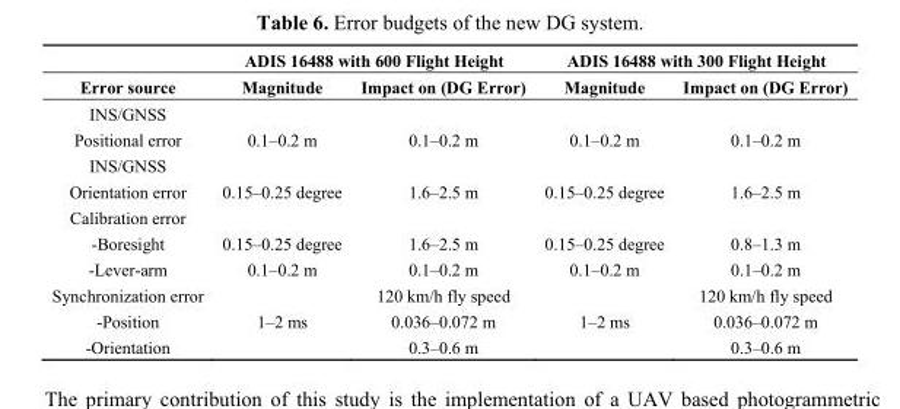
<table><thead><tr><td rowspan="2">Error source</td><td colspan="2">ADIS 16488 with 600 Flight Height</td><td colspan="2">ADIS 16488 with 300 Flight Height</td></tr><tr><td>Magnitude</td><td>Impact on (DG Error)</td><td>Magnitude</td><td>Impact on (DG Error)</td></tr></thead><tbody><tr><td>INS/GNSS Positional error</td><td>0.1–0.2 m</td><td>0.1–0.2 m</td><td>0.1–0.2 m</td><td>0.1–0.2 m</td></tr><tr><td>INS/GNSS Orientation error</td><td>0.15–0.25 degree</td><td>1.6–2.5 m</td><td>0.15–0.25 degree</td><td>1.6–2.5 m</td></tr><tr><td>Calibration error -Boresight -Lever-arm</td><td>0.15–0.25 degree 0.1–0.2 m</td><td>1.6–2.5 m 0.1–0.2 m</td><td>0.15–0.25 degree 0.1–0.2 m</td><td>0.8–1.3 m 0.1–0.2 m</td></tr><tr><td>Synchronization error -Position -Orientation</td><td>1–2 ms</td><td>120 km/h fly speed 0.036–0.072 m 0.3–0.6 m</td><td>1–2 ms</td><td>120 km/h fly speed 0.036–0.072 m 0.3–0.6 m</td></tr></tbody></table>